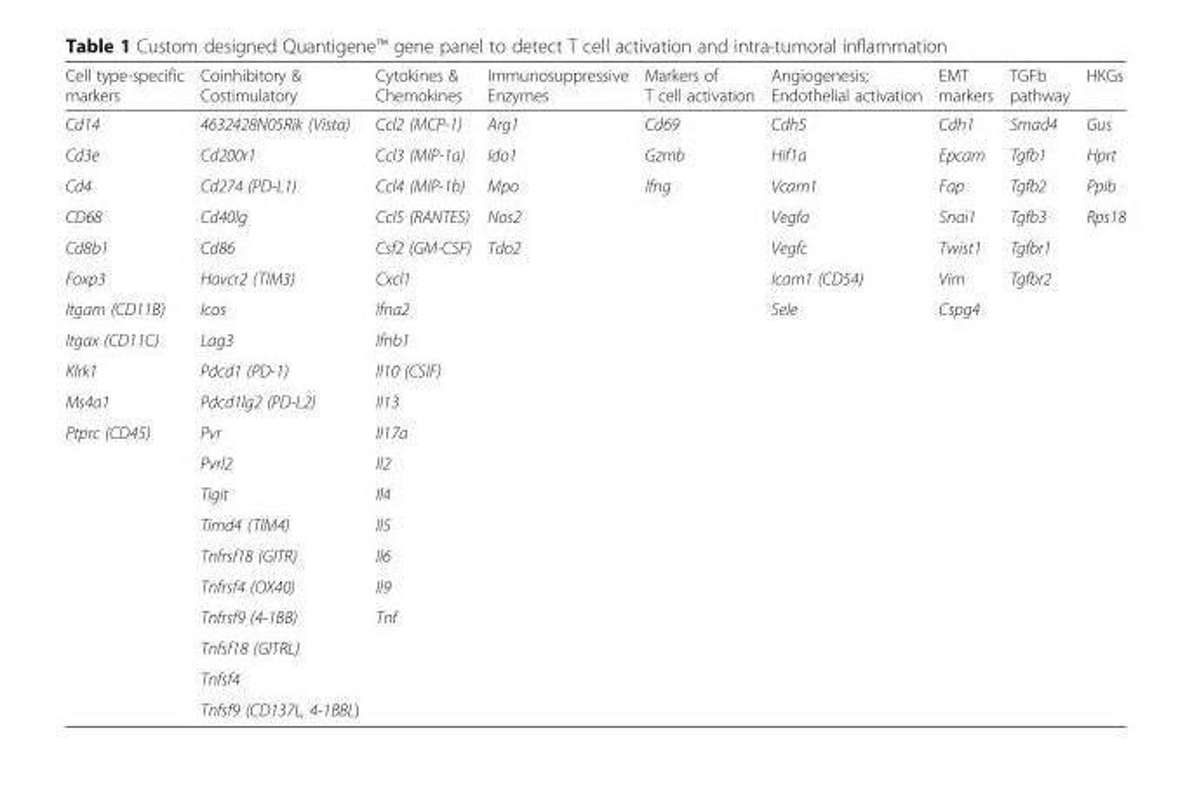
<table><thead><tr><td>Cell type-specific markers</td><td>Coinhibitory &amp; Costimulatory</td><td>Cytokines &amp; Chemokines</td><td>Immunosuppressive Enzymes</td><td>Markers of T cell activation</td><td>Angiogenesis; Endothelial activation</td><td>EMT markers</td><td>TGFb pathway</td><td>HKGs</td></tr></thead><tbody><tr><td>Cd14</td><td>4632428N05Rik (Vista)</td><td>Ccl2 (MCP-1)</td><td>Arg1</td><td>Cd69</td><td>Cdh5</td><td>Cdh1</td><td>Smad4</td><td>Gus</td></tr><tr><td>Cd3e</td><td>Cd200r1</td><td>Ccl3 (MIP-1a)</td><td>Ido1</td><td>Gzmb</td><td>Hif1a</td><td>Epcam</td><td>Tgfb1</td><td>Hprt</td></tr><tr><td>Cd4</td><td>Cd274 (PD-L1)</td><td>Ccl4 (MIP-1b)</td><td>Mpo</td><td>Ifng</td><td>Vcam1</td><td>Fap</td><td>Tgfb2</td><td>Ppib</td></tr><tr><td>CD68</td><td>Cd40lg</td><td>Ccl5 (RANTES)</td><td>Nos2</td><td></td><td>Vegfa</td><td>Snai1</td><td>Tgfb3</td><td>Rps18</td></tr><tr><td>Cd8b1</td><td>Cd86</td><td>Csf2 (GM-CSF)</td><td>Tdo2</td><td></td><td>Vegfc</td><td>Twist1</td><td>Tgfbr1</td><td></td></tr><tr><td>Foxp3</td><td>Havcr2 (TIM3)</td><td>Cxcl1</td><td></td><td></td><td>Icam1 (CD54)</td><td>Vim</td><td>Tgfbr2</td><td></td></tr><tr><td>Itgam (CD11B)</td><td>Icos</td><td>Ifna2</td><td></td><td></td><td>Sele</td><td>Cspg4</td><td></td><td></td></tr><tr><td>Itgax (CD11C)</td><td>Lag3</td><td>Ifnb1</td><td></td><td></td><td></td><td></td><td></td><td></td></tr><tr><td>Klrk1</td><td>Pdcd1 (PD-1)</td><td>Il10 (CSIF)</td><td></td><td></td><td></td><td></td><td></td><td></td></tr><tr><td>Ms4a1</td><td>Pdcd1lg2 (PD-L2)</td><td>Il13</td><td></td><td></td><td></td><td></td><td></td><td></td></tr><tr><td rowspan="10">Ptprc (CD45)</td><td>Pvr</td><td>Il17a</td><td></td><td></td><td></td><td></td><td></td><td></td></tr><tr><td>Pvrl2</td><td>Il2</td><td></td><td></td><td></td><td></td><td></td><td></td></tr><tr><td>Tigit</td><td>Il4</td><td></td><td></td><td></td><td></td><td></td><td></td></tr><tr><td>Timd4 (TIM4)</td><td>Il5</td><td></td><td></td><td></td><td></td><td></td><td></td></tr><tr><td>Tnfrsf18 (GITR)</td><td>Il6</td><td></td><td></td><td></td><td></td><td></td><td></td></tr><tr><td>Tnfrsf4 (OX40)</td><td>Il9</td><td></td><td></td><td></td><td></td><td></td><td></td></tr><tr><td>Tnfrsf9 (4-1BB)</td><td>Tnf</td><td></td><td></td><td></td><td></td><td></td><td></td></tr><tr><td>Tnfsf18 (GITRL)</td><td></td><td></td><td></td><td></td><td></td><td></td><td></td></tr><tr><td>Tnfsf4</td><td></td><td></td><td></td><td></td><td></td><td></td><td></td></tr><tr><td>Tnfsf9 (CD137L, 4-1BBL)</td><td></td><td></td><td></td><td></td><td></td><td></td><td></td></tr></tbody></table>